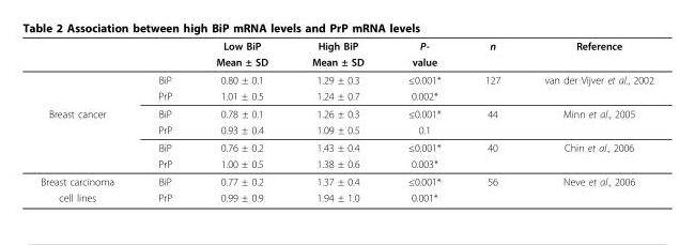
<table><thead><tr><td rowspan="2"></td><td rowspan="2"></td><td rowspan="2">Low BiP Mean ± SD</td><td rowspan="2">High BiP Mean ± SD</td><td rowspan="2">P- value</td><td rowspan="2">n</td><td rowspan="2">Reference</td></tr><tr></tr></thead><tbody><tr><td></td><td>BiP</td><td>0.80 ± 0.1</td><td>1.29 ± 0.3</td><td>≤0.001*</td><td>127</td><td>van der Vijver et al., 2002</td></tr><tr><td></td><td>PrP</td><td>1.01 ± 0.5</td><td>1.24 ± 0.7</td><td>0.002*</td><td></td><td></td></tr><tr><td rowspan="4">Breast cancer</td><td>BiP</td><td>0.78 ± 0.1</td><td>1.26 ± 0.3</td><td>≤0.001*</td><td>44</td><td>Minn et al., 2005</td></tr><tr><td>PrP</td><td>0.93 ± 0.4</td><td>1.09 ± 0.5</td><td>0.1</td><td></td><td></td></tr><tr><td>BiP</td><td>0.76 ± 0.2</td><td>1.43 ± 0.4</td><td>≤0.001*</td><td>40</td><td>Chin et al., 2006</td></tr><tr><td>PrP</td><td>1.00 ± 0.5</td><td>1.38 ± 0.6</td><td>0.003*</td><td></td><td></td></tr><tr><td>Breast carcinoma</td><td>BiP</td><td>0.77 ± 0.2</td><td>1.37 ± 0.4</td><td>≤0.001*</td><td>56</td><td>Neve et al., 2006</td></tr><tr><td>cell lines</td><td>PrP</td><td>0.99 ± 0.9</td><td>1.94 ± 1.0</td><td>0.001*</td><td></td><td></td></tr></tbody></table>